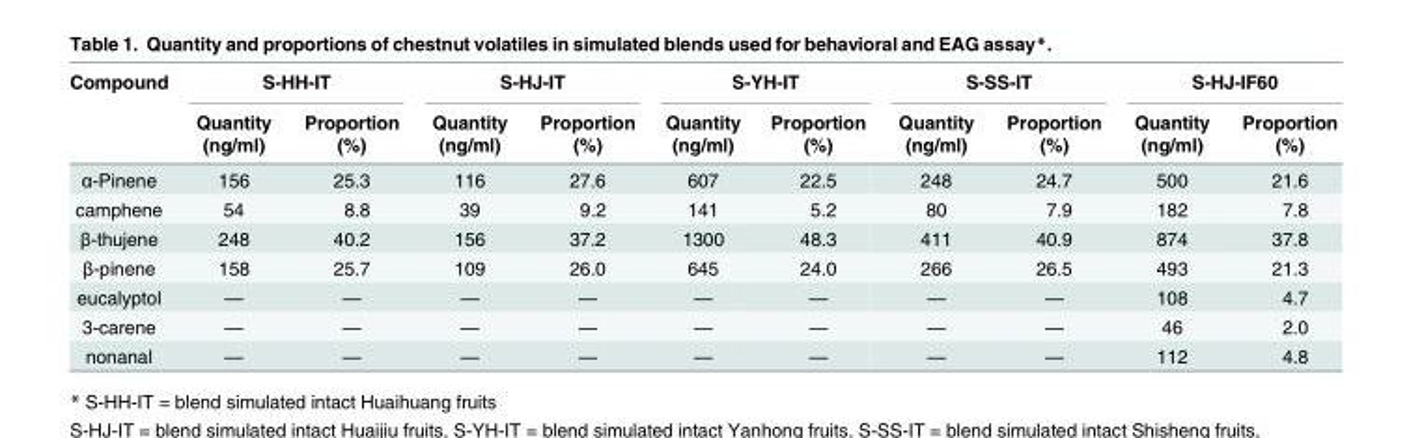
<table><thead><tr><td rowspan="2">Compound</td><td colspan="2">S-HH-IT</td><td colspan="2">S-HJ-IT</td><td colspan="2">S-YH-IT</td><td colspan="2">S-SS-IT</td><td colspan="2">S-HJ-IF60</td></tr><tr><td>Quantity (ng/ml)</td><td>Proportion (%)</td><td>Quantity (ng/ml)</td><td>Proportion (%)</td><td>Quantity (ng/ml)</td><td>Proportion (%)</td><td>Quantity (ng/ml)</td><td>Proportion (%)</td><td>Quantity (ng/ml)</td><td>Proportion (%)</td></tr></thead><tbody><tr><td>α-Pinene</td><td>156</td><td>25.3</td><td>116</td><td>27.6</td><td>607</td><td>22.5</td><td>248</td><td>24.7</td><td>500</td><td>21.6</td></tr><tr><td>camphene</td><td>54</td><td>8.8</td><td>39</td><td>9.2</td><td>141</td><td>5.2</td><td>80</td><td>7.9</td><td>182</td><td>7.8</td></tr><tr><td>β-thujene</td><td>248</td><td>40.2</td><td>156</td><td>37.2</td><td>1300</td><td>48.3</td><td>411</td><td>40.9</td><td>874</td><td>37.8</td></tr><tr><td>β-pinene</td><td>158</td><td>25.7</td><td>109</td><td>26.0</td><td>645</td><td>24.0</td><td>266</td><td>26.5</td><td>493</td><td>21.3</td></tr><tr><td>eucalyptol</td><td>—</td><td>—</td><td>—</td><td>—</td><td>—</td><td>—</td><td>—</td><td>—</td><td>108</td><td>4.7</td></tr><tr><td>3-carene</td><td>—</td><td>—</td><td>—</td><td>—</td><td>—</td><td>—</td><td>—</td><td>—</td><td>46</td><td>2.0</td></tr><tr><td>nonanal</td><td>—</td><td>—</td><td>—</td><td>—</td><td>—</td><td>—</td><td>—</td><td>—</td><td>112</td><td>4.8</td></tr></tbody></table>